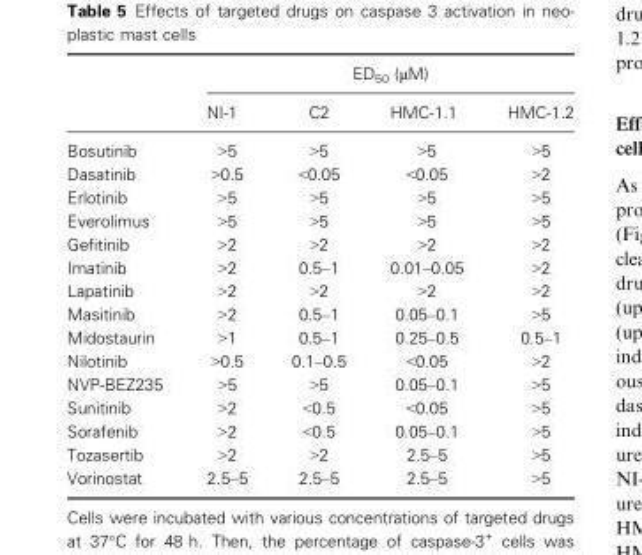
<table><thead><tr><td rowspan="2"></td><td colspan="4">ED<sub>50</sub> (μM)</td></tr><tr><td>NI-1</td><td>C2</td><td>HMC-1.1</td><td>HMC-1.2</td></tr></thead><tbody><tr><td>Bosutinib</td><td>&gt;5</td><td>&gt;5</td><td>&gt;5</td><td>&gt;5</td></tr><tr><td>Dasatinib</td><td>&gt;0.5</td><td>&lt;0.05</td><td>&lt;0.05</td><td>&gt;2</td></tr><tr><td>Erlotinib</td><td>&gt;5</td><td>&gt;5</td><td>&gt;5</td><td>&gt;5</td></tr><tr><td>Everolimus</td><td>&gt;5</td><td>&gt;5</td><td>&gt;5</td><td>&gt;5</td></tr><tr><td>Gefitinib</td><td>&gt;2</td><td>&gt;2</td><td>&gt;2</td><td>&gt;2</td></tr><tr><td>Imatinib</td><td>&gt;2</td><td>0.5–1</td><td>0.01–0.05</td><td>&gt;2</td></tr><tr><td>Lapatinib</td><td>&gt;2</td><td>&gt;2</td><td>&gt;2</td><td>&gt;2</td></tr><tr><td>Masitinib</td><td>&gt;2</td><td>0.5–1</td><td>0.05–0.1</td><td>&gt;5</td></tr><tr><td>Midostaurin</td><td>&gt;1</td><td>0.5–1</td><td>0.25–0.5</td><td>0.5–1</td></tr><tr><td>Nilotinib</td><td>&gt;0.5</td><td>0.1–0.5</td><td>&lt;0.05</td><td>&gt;2</td></tr><tr><td>NVP-BEZ235</td><td>&gt;5</td><td>&gt;5</td><td>0.05–0.1</td><td>&gt;5</td></tr><tr><td>Sunitinib</td><td>&gt;2</td><td>&lt;0.5</td><td>&lt;0.05</td><td>&gt;5</td></tr><tr><td>Sorafenib</td><td>&gt;2</td><td>&lt;0.5</td><td>0.05–0.1</td><td>&gt;5</td></tr><tr><td>Tozasertib</td><td>&gt;2</td><td>&gt;2</td><td>2.5–5</td><td>&gt;5</td></tr><tr><td>Vorinostat</td><td>2.5–5</td><td>2.5–5</td><td>2.5–5</td><td>&gt;5</td></tr></tbody></table>